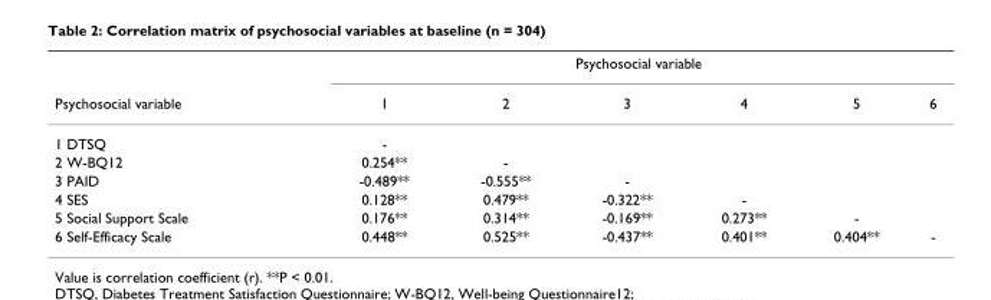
<table><thead><tr><td rowspan="2">Psychosocial variable</td><td colspan="6">Psychosocial variable</td></tr><tr><td>1</td><td>2</td><td>3</td><td>4</td><td>5</td><td>6</td></tr></thead><tbody><tr><td>1 DTSQ</td><td>-</td><td></td><td></td><td></td><td></td><td></td></tr><tr><td>2 W-BQ12</td><td>0.254**</td><td>-</td><td></td><td></td><td></td><td></td></tr><tr><td>3 PAID</td><td>-0.489**</td><td>-0.555**</td><td>-</td><td></td><td></td><td></td></tr><tr><td>4 SES</td><td>0.128**</td><td>0.479**</td><td>-0.322**</td><td>-</td><td></td><td></td></tr><tr><td>5 Social Support Scale</td><td>0.176**</td><td>0.314**</td><td>-0.169**</td><td>0.273**</td><td>-</td><td></td></tr><tr><td>6 Self-Efficacy Scale</td><td>0.448**</td><td>0.525**</td><td>-0.437**</td><td>0.401**</td><td>0.404**</td><td>-</td></tr></tbody></table>